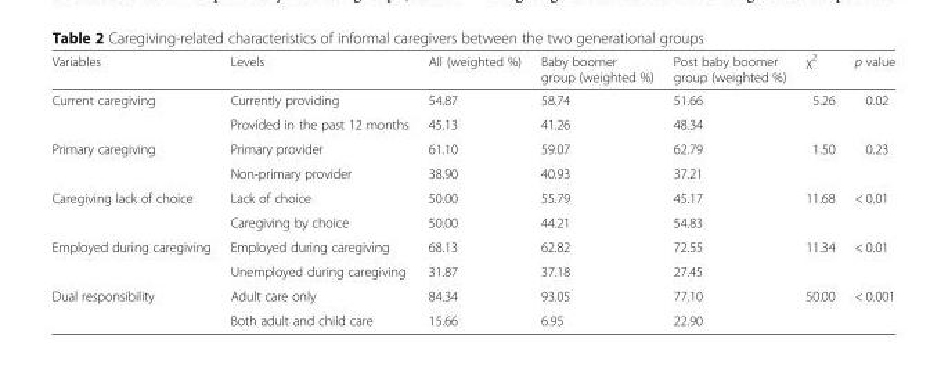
<table><thead><tr><td>Variables</td><td>Levels</td><td>All (weighted %)</td><td>Baby boomer group (weighted %)</td><td>Post baby boomer group (weighted %)</td><td>χ<sup>2</sup></td><td>p value</td></tr></thead><tbody><tr><td rowspan="2">Current caregiving</td><td>Currently providing</td><td>54.87</td><td>58.74</td><td>51.66</td><td>5.26</td><td>0.02</td></tr><tr><td>Provided in the past 12 months</td><td>45.13</td><td>41.26</td><td>48.34</td><td></td><td></td></tr><tr><td rowspan="2">Primary caregiving</td><td>Primary provider</td><td>61.10</td><td>59.07</td><td>62.79</td><td>1.50</td><td>0.23</td></tr><tr><td>Non-primary provider</td><td>38.90</td><td>40.93</td><td>37.21</td><td></td><td></td></tr><tr><td rowspan="2">Caregiving lack of choice</td><td>Lack of choice</td><td>50.00</td><td>55.79</td><td>45.17</td><td>11.68</td><td>&lt; 0.01</td></tr><tr><td>Caregiving by choice</td><td>50.00</td><td>44.21</td><td>54.83</td><td></td><td></td></tr><tr><td rowspan="2">Employed during caregiving</td><td>Employed during caregiving</td><td>68.13</td><td>62.82</td><td>72.55</td><td>11.34</td><td>&lt; 0.01</td></tr><tr><td>Unemployed during caregiving</td><td>31.87</td><td>37.18</td><td>27.45</td><td></td><td></td></tr><tr><td rowspan="2">Dual responsibility</td><td>Adult care only</td><td>84.34</td><td>93.05</td><td>77.10</td><td>50.00</td><td>&lt; 0.001</td></tr><tr><td>Both adult and child care</td><td>15.66</td><td>6.95</td><td>22.90</td><td></td><td></td></tr></tbody></table>